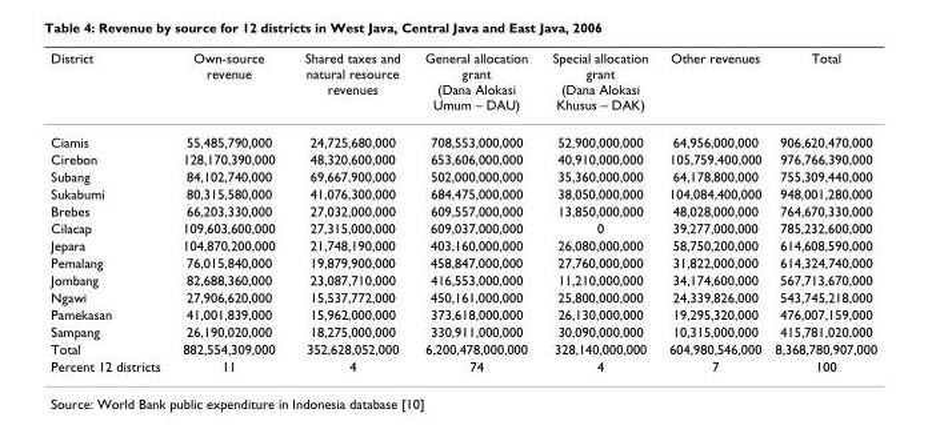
<table><thead><tr><td>District</td><td>Own-source revenue</td><td>Shared taxes and natural resource revenues</td><td>General allocation grant (Dana Alokasi Umum – DAU)</td><td>Special allocation grant (Dana Alokasi Khusus – DAK)</td><td>Other revenues</td><td>Total</td></tr></thead><tbody><tr><td>Ciamis</td><td>55,485,790,000</td><td>24,725,680,000</td><td>708,553,000,000</td><td>52,900,000,000</td><td>64,956,000,000</td><td>906,620,470,000</td></tr><tr><td>Cirebon</td><td>128,170,390,000</td><td>48,320,600,000</td><td>653,606,000,000</td><td>40,910,000,000</td><td>105,759,400,000</td><td>976,766,390,000</td></tr><tr><td>Subang</td><td>84,102,740,000</td><td>69,667,900,000</td><td>502,000,000,000</td><td>35,360,000,000</td><td>64,178,800,000</td><td>755,309,440,000</td></tr><tr><td>Sukabumi</td><td>80,315,580,000</td><td>41,076,300,000</td><td>684,475,000,000</td><td>38,050,000,000</td><td>104,084,400,000</td><td>948,001,280,000</td></tr><tr><td>Brebes</td><td>66,203,330,000</td><td>27,032,000,000</td><td>609,557,000,000</td><td>13,850,000,000</td><td>48,028,000,000</td><td>764,670,330,000</td></tr><tr><td>Cilacap</td><td>109,603,600,000</td><td>27,315,000,000</td><td>609,037,000,000</td><td>0</td><td>39,277,000,000</td><td>785,232,600,000</td></tr><tr><td>Jepara</td><td>104,870,200,000</td><td>21,748,190,000</td><td>403,160,000,000</td><td>26,080,000,000</td><td>58,750,200,000</td><td>614,608,590,000</td></tr><tr><td>Pemalang</td><td>76,015,840,000</td><td>19,879,900,000</td><td>458,847,000,000</td><td>27,760,000,000</td><td>31,822,000,000</td><td>614,324,740,000</td></tr><tr><td>Jombang</td><td>82,688,360,000</td><td>23,087,710,000</td><td>416,553,000,000</td><td>11,210,000,000</td><td>34,174,600,000</td><td>567,713,670,000</td></tr><tr><td>Ngawi</td><td>27,906,620,000</td><td>15,537,772,000</td><td>450,161,000,000</td><td>25,800,000,000</td><td>24,339,826,000</td><td>543,745,218,000</td></tr><tr><td>Pamekasan</td><td>41,001,839,000</td><td>15,962,000,000</td><td>373,618,000,000</td><td>26,130,000,000</td><td>19,295,320,000</td><td>476,007,159,000</td></tr><tr><td>Sampang</td><td>26,190,020,000</td><td>18,275,000,000</td><td>330,911,000,000</td><td>30,090,000,000</td><td>10,315,000,000</td><td>415,781,020,000</td></tr><tr><td>Total</td><td>882,554,309,000</td><td>352,628,052,000</td><td>6,200,478,000,000</td><td>328,140,000,000</td><td>604,980,546,000</td><td>8,368,780,907,000</td></tr><tr><td>Percent 12 districts</td><td>11</td><td>4</td><td>74</td><td>4</td><td>7</td><td>100</td></tr></tbody></table>